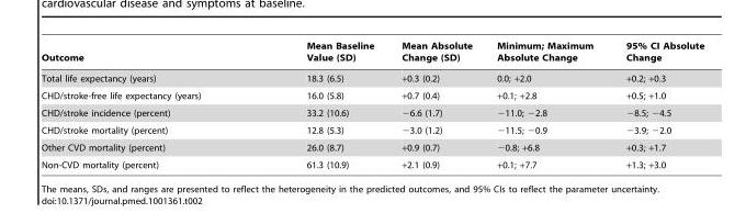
<table><thead><tr><td>Outcome</td><td>Mean Baseline Value (SD)</td><td>Mean Absolute Change (SD)</td><td>Minimum; Maximum Absolute Change</td><td>95% CI Absolute Change</td></tr></thead><tbody><tr><td>Total life expectancy (years)</td><td>18.3 (6.5)</td><td>+0.3 (0.2)</td><td>0.0; +2.0</td><td>+0.2; +0.3</td></tr><tr><td>CHD/stroke-free life expectancy (years)</td><td>16.0 (5.8)</td><td>+0.7 (0.4)</td><td>+0.1; +2.8</td><td>+0.5; +1.0</td></tr><tr><td>CHD/stroke incidence (percent)</td><td>33.2 (10.6)</td><td>−6.6 (1.7)</td><td>−11.0; −2.8</td><td>−8.5; −4.5</td></tr><tr><td>CHD/stroke mortality (percent)</td><td>12.8 (5.3)</td><td>−3.0 (1.2)</td><td>−11.5; −0.9</td><td>−3.9; −2.0</td></tr><tr><td>Other CVD mortality (percent)</td><td>26.0 (8.7)</td><td>+0.9 (0.7)</td><td>−0.8; +6.8</td><td>+0.3; +1.7</td></tr><tr><td>Non-CVD mortality (percent)</td><td>61.3 (10.9)</td><td>+2.1 (0.9)</td><td>+0.1; +7.7</td><td>+1.3; +3.0</td></tr></tbody></table>